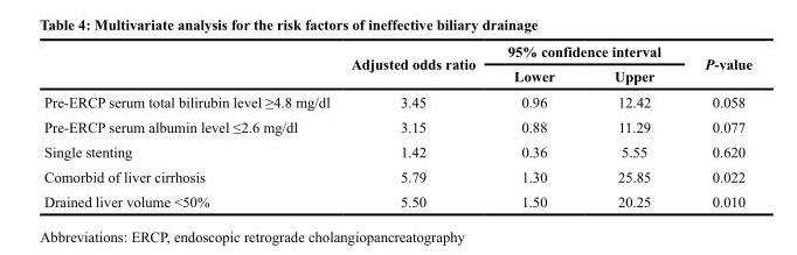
<table><thead><tr><td rowspan="2"></td><td rowspan="2">Adjusted odds ratio</td><td colspan="2">95% confidence interval</td><td rowspan="2">P-value</td></tr><tr><td>Lower</td><td>Upper</td></tr></thead><tbody><tr><td>Pre-ERCP serum total bilirubin level ≥4.8 mg/dl</td><td>3.45</td><td>0.96</td><td>12.42</td><td>0.058</td></tr><tr><td>Pre-ERCP serum albumin level ≤2.6 mg/dl</td><td>3.15</td><td>0.88</td><td>11.29</td><td>0.077</td></tr><tr><td>Single stenting</td><td>1.42</td><td>0.36</td><td>5.55</td><td>0.620</td></tr><tr><td>Comorbid of liver cirrhosis</td><td>5.79</td><td>1.30</td><td>25.85</td><td>0.022</td></tr><tr><td>Drained liver volume &lt;50%</td><td>5.50</td><td>1.50</td><td>20.25</td><td>0.010</td></tr></tbody></table>